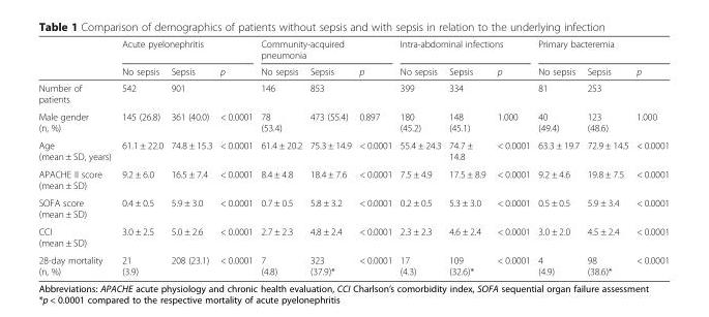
<table><thead><tr><td rowspan="2"></td><td colspan="3">Acute pyelonephritis</td><td colspan="3">Community-acquired pneumonia</td><td colspan="3">Intra-abdominal infections</td><td colspan="3">Primary bacteremia</td></tr><tr><td>No sepsis</td><td>Sepsis</td><td>p</td><td>No sepsis</td><td>Sepsis</td><td>p</td><td>No sepsis</td><td>Sepsis</td><td>p</td><td>No sepsis</td><td>Sepsis</td><td>p</td></tr></thead><tbody><tr><td>Number of patients</td><td>542</td><td>901</td><td></td><td>146</td><td>853</td><td></td><td>399</td><td>334</td><td></td><td>81</td><td>253</td><td></td></tr><tr><td>Male gender (n, %)</td><td>145 (26.8)</td><td>361 (40.0)</td><td>&lt; 0.0001</td><td>78 (53.4)</td><td>473 (55.4)</td><td>0.897</td><td>180 (45.2)</td><td>148 (45.1)</td><td>1.000</td><td>40 (49.4)</td><td>123 (48.6)</td><td>1.000</td></tr><tr><td>Age (mean ± SD, years)</td><td>61.1 ± 22.0</td><td>74.8 ± 15.3</td><td>&lt; 0.0001</td><td>61.4 ± 20.2</td><td>75.3 ± 14.9</td><td>&lt; 0.0001</td><td>55.4 ± 24.3</td><td>74.7 ± 14.8</td><td>&lt; 0.0001</td><td>63.3 ± 19.7</td><td>72.9 ± 14.5</td><td>&lt; 0.0001</td></tr><tr><td>APACHE II score (mean ± SD)</td><td>9.2 ± 6.0</td><td>16.5 ± 7.4</td><td>&lt; 0.0001</td><td>8.4 ± 4.8</td><td>18.4 ± 7.6</td><td>&lt; 0.0001</td><td>7.5 ± 4.9</td><td>17.5 ± 8.9</td><td>&lt; 0.0001</td><td>9.2 ± 4.6</td><td>19.8 ± 7.5</td><td>&lt; 0.0001</td></tr><tr><td>SOFA score (mean ± SD)</td><td>0.4 ± 0.5</td><td>5.9 ± 3.0</td><td>&lt; 0.0001</td><td>0.7 ± 0.5</td><td>5.8 ± 3.2</td><td>&lt; 0.0001</td><td>0.2 ± 0.5</td><td>5.3 ± 3.0</td><td>&lt; 0.0001</td><td>0.5 ± 0.5</td><td>5.9 ± 3.4</td><td>&lt; 0.0001</td></tr><tr><td>CCI (mean ± SD)</td><td>3.0 ± 2.5</td><td>5.0 ± 2.6</td><td>&lt; 0.0001</td><td>2.7 ± 2.3</td><td>4.8 ± 2.4</td><td>&lt; 0.0001</td><td>2.3 ± 2.3</td><td>4.6 ± 2.4</td><td>&lt; 0.0001</td><td>3.0 ± 2.0</td><td>4.5 ± 2.4</td><td>&lt; 0.0001</td></tr><tr><td>28-day mortality (n, %)</td><td>21 (3.9)</td><td>208 (23.1)</td><td>&lt; 0.0001</td><td>7 (4.8)</td><td>323 (37.9)*</td><td>&lt; 0.0001</td><td>17 (4.3)</td><td>109 (32.6)*</td><td>&lt; 0.0001</td><td>4 (4.9)</td><td>98 (38.6)*</td><td>&lt; 0.0001</td></tr></tbody></table>